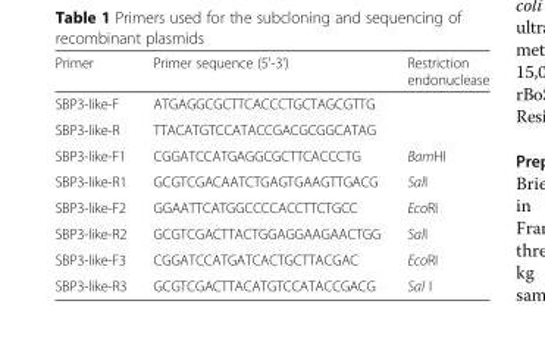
<table><thead><tr><td>Primer</td><td>Primer sequence (5&#x27;-3&#x27;)</td><td>Restriction endonuclease</td></tr></thead><tbody><tr><td>SBP3-like-F</td><td>ATGAGGCGCTTCACCCTGCTAGCGTTG</td><td></td></tr><tr><td>SBP3-like-R</td><td>TTACATGTCCATACCGACGCGGCATAG</td><td></td></tr><tr><td>SBP3-like-F1</td><td>CGGATCCATGAGGCGCTTCACCCTG</td><td>BamHI</td></tr><tr><td>SBP3-like-R1</td><td>GCGTCGACAATCTGAGTGAAGTTGACG</td><td>SalI</td></tr><tr><td>SBP3-like-F2</td><td>GGAATTCATGGCCCCACCTTCTGCC</td><td>EcoRI</td></tr><tr><td>SBP3-like-R2</td><td>GCGTCGACTTACTGGAGGAAGAACTGG</td><td>SalI</td></tr><tr><td>SBP3-like-F3</td><td>CGGATCCATGATCACTGCTTACGAC</td><td>EcoRI</td></tr><tr><td>SBP3-like-R3</td><td>GCGTCGACTTACATGTCCATACCGACG</td><td>Sal I</td></tr></tbody></table>